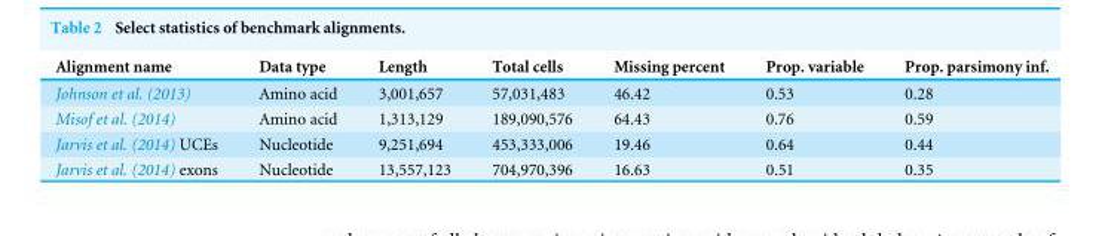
<table><thead><tr><td>Alignment name</td><td>Data type</td><td>Length</td><td>Total cells</td><td>Missing percent</td><td>Prop. variable</td><td>Prop. parsimony inf.</td></tr></thead><tbody><tr><td>Johnson et al. (2013)</td><td>Amino acid</td><td>3,001,657</td><td>57,031,483</td><td>46.42</td><td>0.53</td><td>0.28</td></tr><tr><td>Misof et al. (2014)</td><td>Amino acid</td><td>1,313,129</td><td>189,090,576</td><td>64.43</td><td>0.76</td><td>0.59</td></tr><tr><td>Jarvis et al. (2014) UCEs</td><td>Nucleotide</td><td>9,251,694</td><td>453,333,006</td><td>19.46</td><td>0.64</td><td>0.44</td></tr><tr><td>Jarvis et al. (2014) exons</td><td>Nucleotide</td><td>13,557,123</td><td>704,970,396</td><td>16.63</td><td>0.51</td><td>0.35</td></tr></tbody></table>